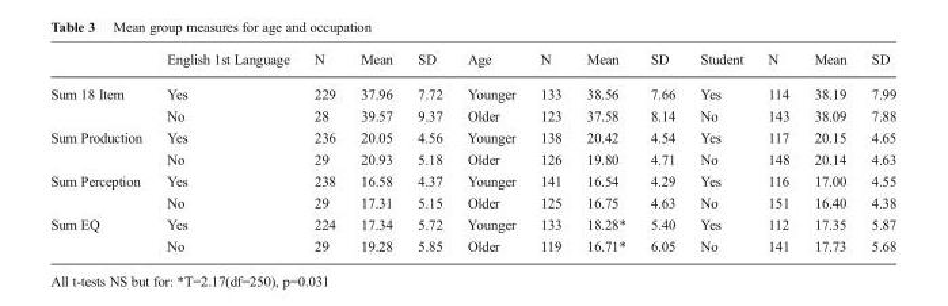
<table><thead><tr><td></td><td>English 1st Language</td><td>N</td><td>Mean</td><td>SD</td><td>Age</td><td>N</td><td>Mean</td><td>SD</td><td>Student</td><td>N</td><td>Mean</td><td>SD</td></tr></thead><tbody><tr><td rowspan="2">Sum 18 Item</td><td>Yes</td><td>229</td><td>37.96</td><td>7.72</td><td>Younger</td><td>133</td><td>38.56</td><td>7.66</td><td>Yes</td><td>114</td><td>38.19</td><td>7.99</td></tr><tr><td>No</td><td>28</td><td>39.57</td><td>9.37</td><td>Older</td><td>123</td><td>37.58</td><td>8.14</td><td>No</td><td>143</td><td>38.09</td><td>7.88</td></tr><tr><td rowspan="2">Sum Production</td><td>Yes</td><td>236</td><td>20.05</td><td>4.56</td><td>Younger</td><td>138</td><td>20.42</td><td>4.54</td><td>Yes</td><td>117</td><td>20.15</td><td>4.65</td></tr><tr><td>No</td><td>29</td><td>20.93</td><td>5.18</td><td>Older</td><td>126</td><td>19.80</td><td>4.71</td><td>No</td><td>148</td><td>20.14</td><td>4.63</td></tr><tr><td rowspan="2">Sum Perception</td><td>Yes</td><td>238</td><td>16.58</td><td>4.37</td><td>Younger</td><td>141</td><td>16.54</td><td>4.29</td><td>Yes</td><td>116</td><td>17.00</td><td>4.55</td></tr><tr><td>No</td><td>29</td><td>17.31</td><td>5.15</td><td>Older</td><td>125</td><td>16.75</td><td>4.63</td><td>No</td><td>151</td><td>16.40</td><td>4.38</td></tr><tr><td rowspan="2">Sum EQ</td><td>Yes</td><td>224</td><td>17.34</td><td>5.72</td><td>Younger</td><td>133</td><td>18.28*</td><td>5.40</td><td>Yes</td><td>112</td><td>17.35</td><td>5.87</td></tr><tr><td>No</td><td>29</td><td>19.28</td><td>5.85</td><td>Older</td><td>119</td><td>16.71*</td><td>6.05</td><td>No</td><td>141</td><td>17.73</td><td>5.68</td></tr></tbody></table>